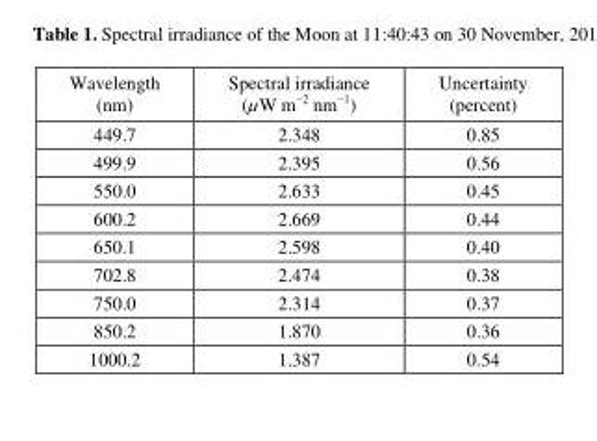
<table><thead><tr><td>Wavelength (nm)</td><td>Spectral irradiance (µW m<sup>−2</sup> nm<sup>−1</sup>)</td><td>Uncertainty (percent)</td></tr></thead><tbody><tr><td>449.7</td><td>2.348</td><td>0.85</td></tr><tr><td>499.9</td><td>2.395</td><td>0.56</td></tr><tr><td>550.0</td><td>2.633</td><td>0.45</td></tr><tr><td>600.2</td><td>2.669</td><td>0.44</td></tr><tr><td>650.1</td><td>2.598</td><td>0.40</td></tr><tr><td>702.8</td><td>2.474</td><td>0.38</td></tr><tr><td>750.0</td><td>2.314</td><td>0.37</td></tr><tr><td>850.2</td><td>1.870</td><td>0.36</td></tr><tr><td>1000.2</td><td>1.387</td><td>0.54</td></tr></tbody></table>